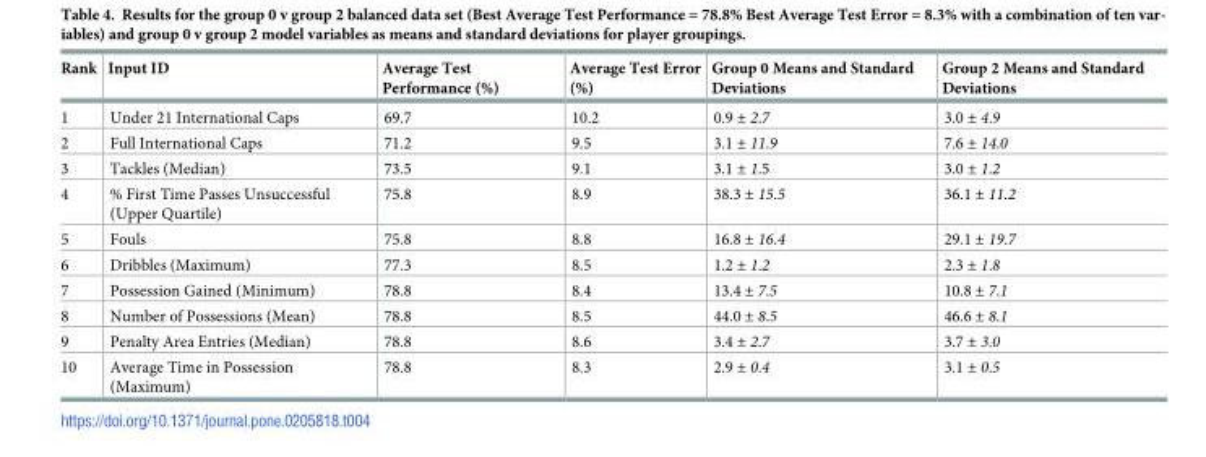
<table><thead><tr><td>Rank</td><td>Input ID</td><td>Average Test Performance (%)</td><td>Average Test Error (%)</td><td>Group 0 Means and Standard Deviations</td><td>Group 2 Means and Standard Deviations</td></tr></thead><tbody><tr><td>1</td><td>Under 21 International Caps</td><td>69.7</td><td>10.2</td><td>0.9 ± 2.7</td><td>3.0 ± 4.9</td></tr><tr><td>2</td><td>Full International Caps</td><td>71.2</td><td>9.5</td><td>3.1 ± 11.9</td><td>7.6 ± 14.0</td></tr><tr><td>3</td><td>Tackles (Median)</td><td>73.5</td><td>9.1</td><td>3.1 ± 1.5</td><td>3.0 ± 1.2</td></tr><tr><td>4</td><td>% First Time Passes Unsuccessful (Upper Quartile)</td><td>75.8</td><td>8.9</td><td>38.3 ± 15.5</td><td>36.1 ± 11.2</td></tr><tr><td>5</td><td>Fouls</td><td>75.8</td><td>8.8</td><td>16.8 ± 16.4</td><td>29.1 ± 19.7</td></tr><tr><td>6</td><td>Dribbles (Maximum)</td><td>77.3</td><td>8.5</td><td>1.2 ± 1.2</td><td>2.3 ± 1.8</td></tr><tr><td>7</td><td>Possession Gained (Minimum)</td><td>78.8</td><td>8.4</td><td>13.4 ± 7.5</td><td>10.8 ± 7.1</td></tr><tr><td>8</td><td>Number of Possessions (Mean)</td><td>78.8</td><td>8.5</td><td>44.0 ± 8.5</td><td>46.6 ± 8.1</td></tr><tr><td>9</td><td>Penalty Area Entries (Median)</td><td>78.8</td><td>8.6</td><td>3.4 ± 2.7</td><td>3.7 ± 3.0</td></tr><tr><td>10</td><td>Average Time in Possession (Maximum)</td><td>78.8</td><td>8.3</td><td>2.9 ± 0.4</td><td>3.1 ± 0.5</td></tr></tbody></table>